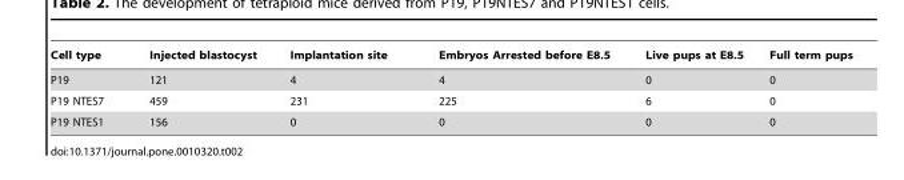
<table><thead><tr><td>Cell type</td><td>Injected blastocyst</td><td>Implantation site</td><td>Embryos Arrested before E8.5</td><td>Live pups at E8.5</td><td>Full term pups</td></tr></thead><tbody><tr><td>P19</td><td>121</td><td>4</td><td>4</td><td>0</td><td>0</td></tr><tr><td>P19 NTES7</td><td>459</td><td>231</td><td>225</td><td>6</td><td>0</td></tr><tr><td>P19 NTES1</td><td>156</td><td>0</td><td>0</td><td>0</td><td>0</td></tr></tbody></table>